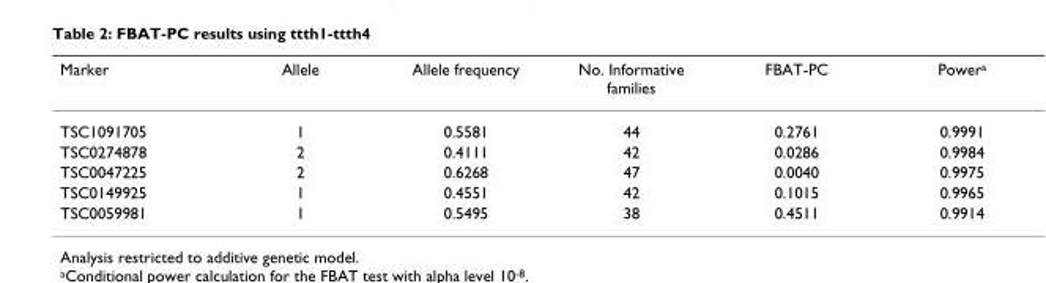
<table><thead><tr><td>Marker</td><td>Allele</td><td>Allele frequency</td><td>No. Informative families</td><td>FBAT-PC</td><td>Powera</td></tr></thead><tbody><tr><td>TSC1091705</td><td>1</td><td>0.5581</td><td>44</td><td>0.2761</td><td>0.9991</td></tr><tr><td>TSC0274878</td><td>2</td><td>0.4111</td><td>42</td><td>0.0286</td><td>0.9984</td></tr><tr><td>TSC0047225</td><td>2</td><td>0.6268</td><td>47</td><td>0.0040</td><td>0.9975</td></tr><tr><td>TSC0149925</td><td>1</td><td>0.4551</td><td>42</td><td>0.1015</td><td>0.9965</td></tr><tr><td>TSC0059981</td><td>1</td><td>0.5495</td><td>38</td><td>0.4511</td><td>0.9914</td></tr></tbody></table>